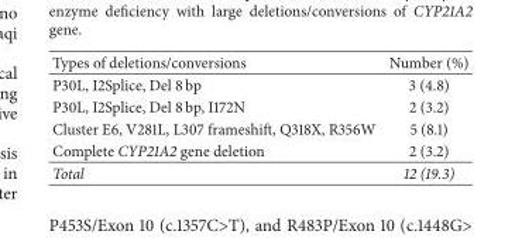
<table><thead><tr><td>Types of deletions/conversions</td><td>Number (%)</td></tr></thead><tbody><tr><td>P30L, I2Splice, Del 8 bp</td><td>3 (4.8)</td></tr><tr><td>P30L, I2Splice, Del 8 bp, I172N</td><td>2 (3.2)</td></tr><tr><td>Cluster E6, V281L, L307 frameshift, Q318X, R356W</td><td>5 (8.1)</td></tr><tr><td>Complete CYP21A2 gene deletion</td><td>2 (3.2)</td></tr><tr><td>Total</td><td>12 (19.3)</td></tr></tbody></table>